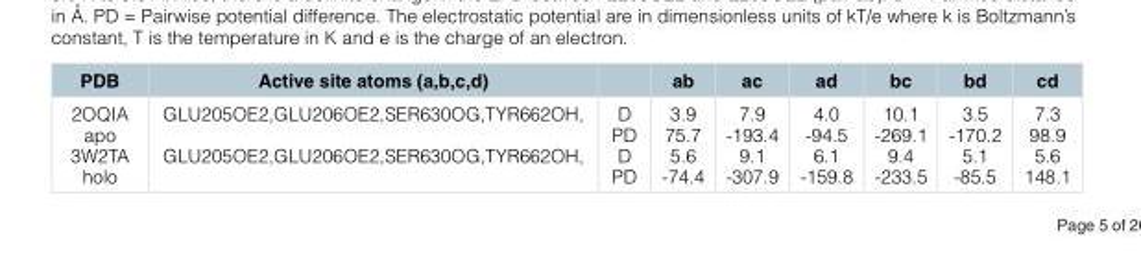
<table><thead><tr><td>PDB</td><td>Active site atoms (a,b,c,d)</td><td></td><td>ab</td><td>ac</td><td>ad</td><td>bc</td><td>bd</td><td>cd</td></tr></thead><tbody><tr><td>2OQIA apo 3W2TA holo</td><td>GLU205OE2,GLU206OE2,SER630OG,TYR662OH, GLU205OE2,GLU206OE2,SER630OG,TYR662OH,</td><td>D PD D PD</td><td>3.9 75.7 5.6 -74.4</td><td>7.9 -193.4 9.1 -307.9</td><td>4.0 -94.5 6.1 -159.8</td><td>10.1 -269.1 9.4 -233.5</td><td>3.5 -170.2 5.1 -85.5</td><td>7.3 98.9 5.6 148.1</td></tr></tbody></table>